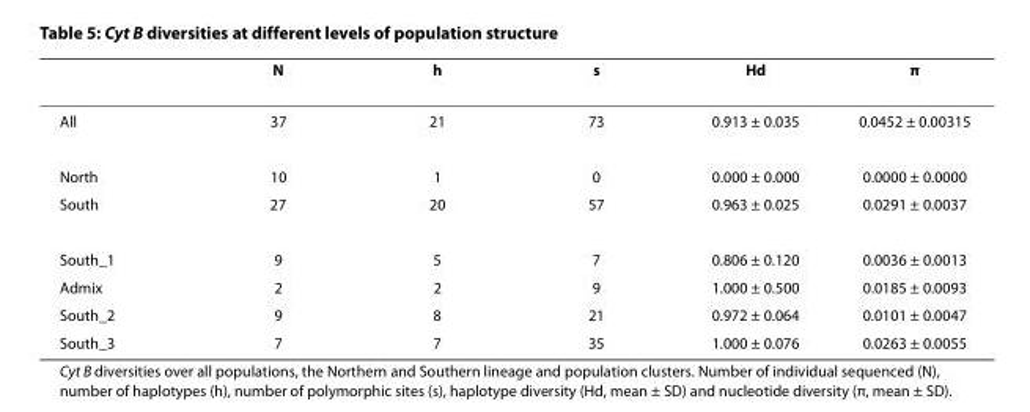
<table><thead><tr><td></td><td>N</td><td>h</td><td>s</td><td>Hd</td><td>π</td></tr></thead><tbody><tr><td>All</td><td>37</td><td>21</td><td>73</td><td>0.913 ± 0.035</td><td>0.0452 ± 0.00315</td></tr><tr><td>North</td><td>10</td><td>1</td><td>0</td><td>0.000 ± 0.000</td><td>0.0000 ± 0.0000</td></tr><tr><td>South</td><td>27</td><td>20</td><td>57</td><td>0.963 ± 0.025</td><td>0.0291 ± 0.0037</td></tr><tr><td>South_1</td><td>9</td><td>5</td><td>7</td><td>0.806 ± 0.120</td><td>0.0036 ± 0.0013</td></tr><tr><td>Admix</td><td>2</td><td>2</td><td>9</td><td>1.000 ± 0.500</td><td>0.0185 ± 0.0093</td></tr><tr><td>South_2</td><td>9</td><td>8</td><td>21</td><td>0.972 ± 0.064</td><td>0.0101 ± 0.0047</td></tr><tr><td>South_3</td><td>7</td><td>7</td><td>35</td><td>1.000 ± 0.076</td><td>0.0263 ± 0.0055</td></tr></tbody></table>